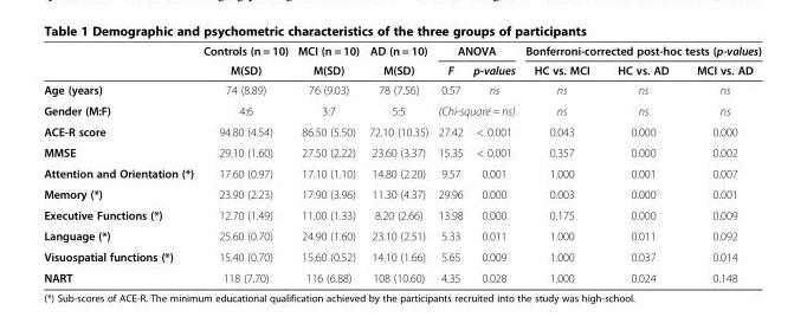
<table><thead><tr><td rowspan="2"></td><td rowspan="2">Controls (n = 10) M(SD)</td><td rowspan="2">MCI (n = 10) M(SD)</td><td rowspan="2">AD (n = 10) M(SD)</td><td colspan="2">ANOVA</td><td colspan="3">Bonferroni-corrected post-hoc tests (p-values)</td></tr><tr><td>F</td><td>p-values</td><td>HC vs. MCI</td><td>HC vs. AD</td><td>MCI vs. AD</td></tr></thead><tbody><tr><td>Age (years)</td><td>74 (8.89)</td><td>76 (9.03)</td><td>78 (7.56)</td><td>0.57</td><td>ns</td><td>ns</td><td>ns</td><td>ns</td></tr><tr><td>Gender (M:F)</td><td>4:6</td><td>3:7</td><td>5:5</td><td colspan="2">(Chi-square = ns)</td><td>ns</td><td>ns</td><td>ns</td></tr><tr><td>ACE-R score</td><td>94.80 (4.54)</td><td>86.50 (5.50)</td><td>72.10 (10.35)</td><td>27.42</td><td>&lt; 0.001</td><td>0.043</td><td>0.000</td><td>0.000</td></tr><tr><td>MMSE</td><td>29.10 (1.60)</td><td>27.50 (2.22)</td><td>23.60 (3.37)</td><td>15.35</td><td>&lt; 0.001</td><td>0.357</td><td>0.000</td><td>0.002</td></tr><tr><td>Attention and Orientation (*)</td><td>17.60 (0.97)</td><td>17.10 (1.10)</td><td>14.80 (2.20)</td><td>9.57</td><td>0.001</td><td>1.000</td><td>0.001</td><td>0.007</td></tr><tr><td>Memory (*)</td><td>23.90 (2.23)</td><td>17.90 (3.96)</td><td>11.30 (4.37)</td><td>29.96</td><td>0.000</td><td>0.003</td><td>0.000</td><td>0.001</td></tr><tr><td>Executive Functions (*)</td><td>12.70 (1.49)</td><td>11.00 (1.33)</td><td>8.20 (2.66)</td><td>13.98</td><td>0.000</td><td>0.175</td><td>0.000</td><td>0.009</td></tr><tr><td>Language (*)</td><td>25.60 (0.70)</td><td>24.90 (1.60)</td><td>23.10 (2.51)</td><td>5.33</td><td>0.011</td><td>1.000</td><td>0.011</td><td>0.092</td></tr><tr><td>Visuospatial functions (*)</td><td>15.40 (0.70)</td><td>15.60 (0.52)</td><td>14.10 (1.66)</td><td>5.65</td><td>0.009</td><td>1.000</td><td>0.037</td><td>0.014</td></tr><tr><td>NART</td><td>118 (7.70)</td><td>116 (6.88)</td><td>108 (10.60)</td><td>4.35</td><td>0.028</td><td>1.000</td><td>0.024</td><td>0.148</td></tr></tbody></table>